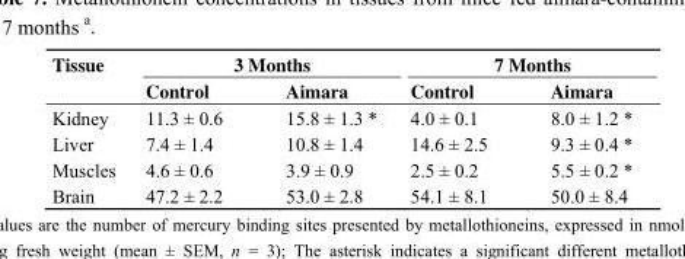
<table><thead><tr><td rowspan="2">Tissue</td><td colspan="2">3 Months</td><td colspan="2">7 Months</td></tr><tr><td>Control</td><td>Aimara</td><td>Control</td><td>Aimara</td></tr></thead><tbody><tr><td>Kidney</td><td>11.3 ± 0.6</td><td>15.8 ± 1.3 *</td><td>4.0 ± 0.1</td><td>8.0 ± 1.2 *</td></tr><tr><td>Liver</td><td>7.4 ± 1.4</td><td>10.8 ± 1.4</td><td>14.6 ± 2.5</td><td>9.3 ± 0.4 *</td></tr><tr><td>Muscles</td><td>4.6 ± 0.6</td><td>3.9 ± 0.9</td><td>2.5 ± 0.2</td><td>5.5 ± 0.2 *</td></tr><tr><td>Brain</td><td>47.2 ± 2.2</td><td>53.0 ± 2.8</td><td>54.1 ± 8.1</td><td>50.0 ± 8.4</td></tr></tbody></table>